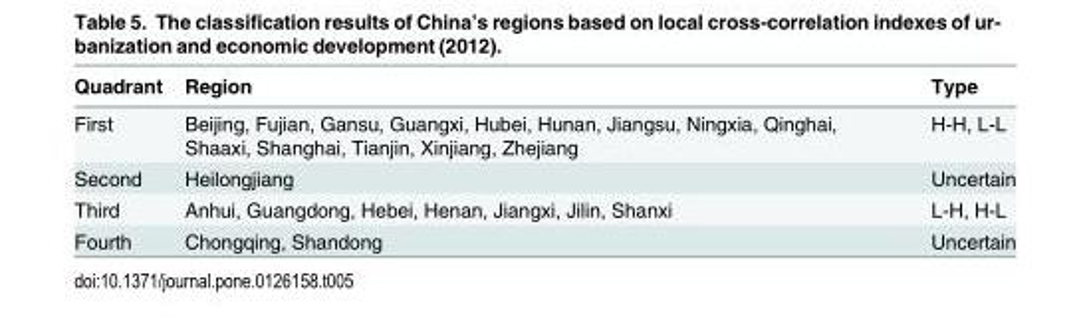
<table><thead><tr><td>Quadrant</td><td>Region</td><td>Type</td></tr></thead><tbody><tr><td>First</td><td>Beijing, Fujian, Gansu, Guangxi, Hubei, Hunan, Jiangsu, Ningxia, Qinghai, Shaaxi, Shanghai, Tianjin, Xinjiang, Zhejiang</td><td>H-H, L-L</td></tr><tr><td>Second</td><td>Heilongjiang</td><td>Uncertain</td></tr><tr><td>Third</td><td>Anhui, Guangdong, Hebei, Henan, Jiangxi, Jilin, Shanxi</td><td>L-H, H-L</td></tr><tr><td>Fourth</td><td>Chongqing, Shandong</td><td>Uncertain</td></tr></tbody></table>